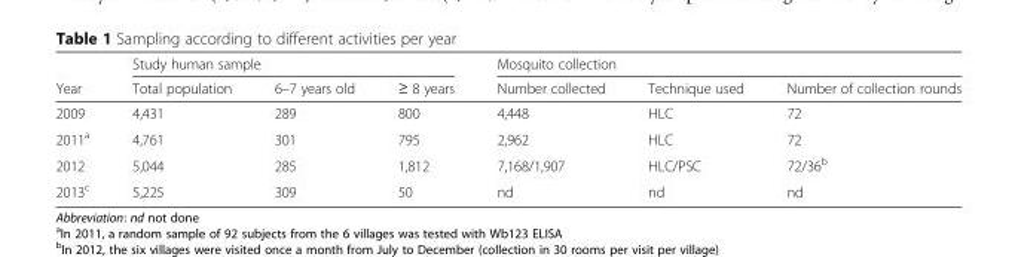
<table><thead><tr><td rowspan="2">Year</td><td colspan="3">Study human sample</td><td colspan="3">Mosquito collection</td></tr><tr><td>Total population</td><td>6–7 years old</td><td>≥ 8 years</td><td>Number collected</td><td>Technique used</td><td>Number of collection rounds</td></tr></thead><tbody><tr><td>2009</td><td>4,431</td><td>289</td><td>800</td><td>4,448</td><td>HLC</td><td>72</td></tr><tr><td>2011<sup>a</sup></td><td>4,761</td><td>301</td><td>795</td><td>2,962</td><td>HLC</td><td>72</td></tr><tr><td>2012</td><td>5,044</td><td>285</td><td>1,812</td><td>7,168/1,907</td><td>HLC/PSC</td><td>72/36<sup>b</sup></td></tr><tr><td>2013<sup>c</sup></td><td>5,225</td><td>309</td><td>50</td><td>nd</td><td>nd</td><td>nd</td></tr></tbody></table>